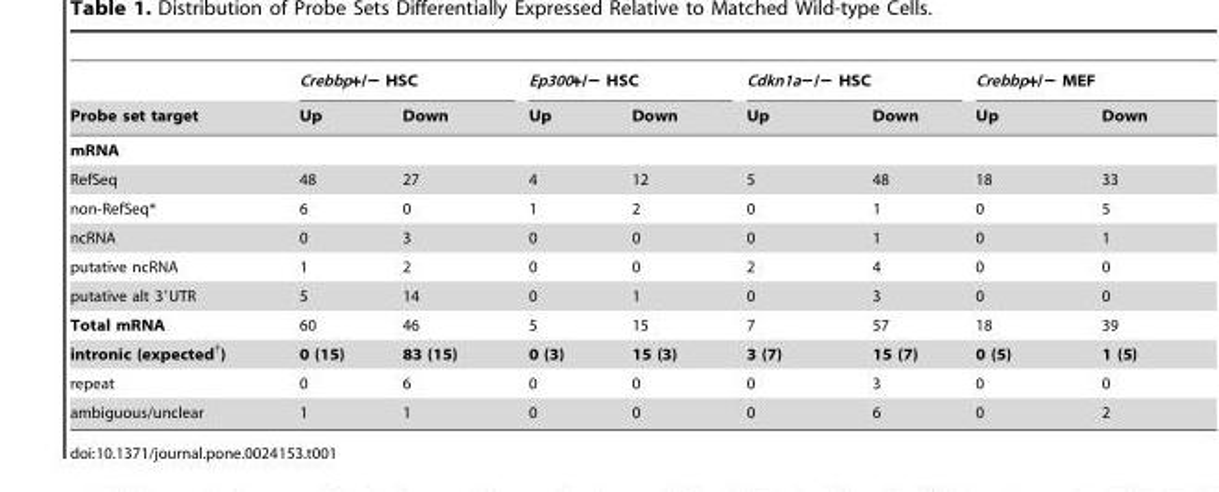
<table><thead><tr><td rowspan="2">Probe set target</td><td colspan="2">Crebbp+/− HSC</td><td colspan="2">Ep300+/− HSC</td><td colspan="2">Cdkn1a−/− HSC</td><td colspan="2">Crebbp+/− MEF</td></tr><tr><td>Up</td><td>Down</td><td>Up</td><td>Down</td><td>Up</td><td>Down</td><td>Up</td><td>Down</td></tr></thead><tbody><tr><td colspan="9">mRNA</td></tr><tr><td>RefSeq</td><td>48</td><td>27</td><td>4</td><td>12</td><td>5</td><td>48</td><td>18</td><td>33</td></tr><tr><td>non-RefSeq*</td><td>6</td><td>0</td><td>1</td><td>2</td><td>0</td><td>1</td><td>0</td><td>5</td></tr><tr><td>ncRNA</td><td>0</td><td>3</td><td>0</td><td>0</td><td>0</td><td>1</td><td>0</td><td>1</td></tr><tr><td>putative ncRNA</td><td>1</td><td>2</td><td>0</td><td>0</td><td>2</td><td>4</td><td>0</td><td>0</td></tr><tr><td>putative alt 3′UTR</td><td>5</td><td>14</td><td>0</td><td>1</td><td>0</td><td>3</td><td>0</td><td>0</td></tr><tr><td>Total mRNA</td><td>60</td><td>46</td><td>5</td><td>15</td><td>7</td><td>57</td><td>18</td><td>39</td></tr><tr><td>intronic (expected<sup>†</sup>)</td><td>0 (15)</td><td>83 (15)</td><td>0 (3)</td><td>15 (3)</td><td>3 (7)</td><td>15 (7)</td><td>0 (5)</td><td>1 (5)</td></tr><tr><td>repeat</td><td>0</td><td>6</td><td>0</td><td>0</td><td>0</td><td>3</td><td>0</td><td>0</td></tr><tr><td>ambiguous/unclear</td><td>1</td><td>1</td><td>0</td><td>0</td><td>0</td><td>6</td><td>0</td><td>2</td></tr></tbody></table>